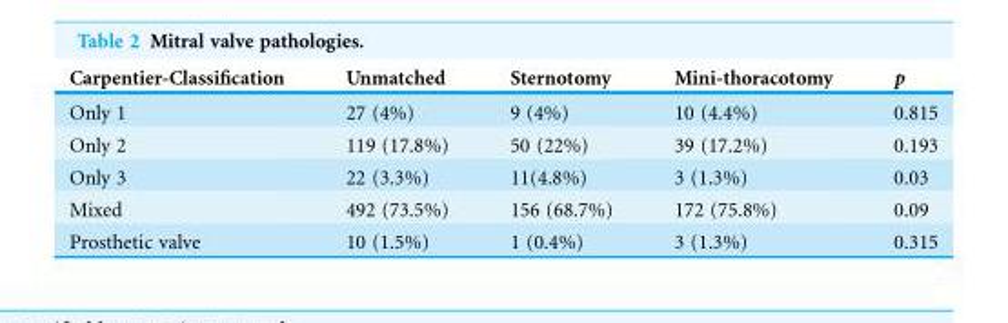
<table><thead><tr><td>Carpentier-Classification</td><td>Unmatched</td><td>Sternotomy</td><td>Mini-thoracotomy</td><td>p</td></tr></thead><tbody><tr><td>Only 1</td><td>27 (4%)</td><td>9 (4%)</td><td>10 (4.4%)</td><td>0.815</td></tr><tr><td>Only 2</td><td>119 (17.8%)</td><td>50 (22%)</td><td>39 (17.2%)</td><td>0.193</td></tr><tr><td>Only 3</td><td>22 (3.3%)</td><td>11(4.8%)</td><td>3 (1.3%)</td><td>0.03</td></tr><tr><td>Mixed</td><td>492 (73.5%)</td><td>156 (68.7%)</td><td>172 (75.8%)</td><td>0.09</td></tr><tr><td>Prosthetic valve</td><td>10 (1.5%)</td><td>1 (0.4%)</td><td>3 (1.3%)</td><td>0.315</td></tr></tbody></table>